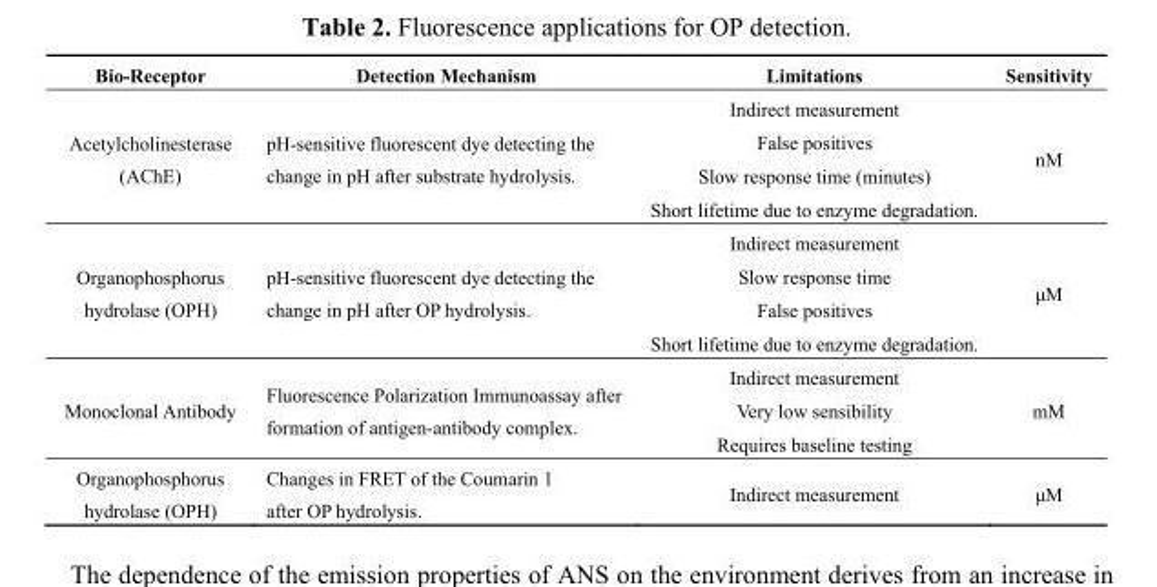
<table><thead><tr><td>Bio-Receptor</td><td>Detection Mechanism</td><td>Limitations</td><td>Sensitivity</td></tr></thead><tbody><tr><td rowspan="4">Acetylcholinesterase (AChE)</td><td rowspan="4">pH-sensitive fluorescent dye detecting the change in pH after substrate hydrolysis.</td><td>Indirect measurement</td><td rowspan="4">nM</td></tr><tr><td>False positives</td></tr><tr><td>Slow response time (minutes)</td></tr><tr><td>Short lifetime due to enzyme degradation.</td></tr><tr><td rowspan="4">Organophosphorus hydrolase (OPH)</td><td rowspan="4">pH-sensitive fluorescent dye detecting the change in pH after OP hydrolysis.</td><td>Indirect measurement</td><td rowspan="4">μM</td></tr><tr><td>Slow response time</td></tr><tr><td>False positives</td></tr><tr><td>Short lifetime due to enzyme degradation.</td></tr><tr><td rowspan="3">Monoclonal Antibody</td><td rowspan="3">Fluorescence Polarization Immunoassay after formation of antigen-antibody complex.</td><td>Indirect measurement</td><td rowspan="3">mM</td></tr><tr><td>Very low sensibility</td></tr><tr><td>Requires baseline testing</td></tr><tr><td>Organophosphorus hydrolase (OPH)</td><td>Changes in FRET of the Coumarin 1 after OP hydrolysis.</td><td>Indirect measurement</td><td>μM</td></tr></tbody></table>